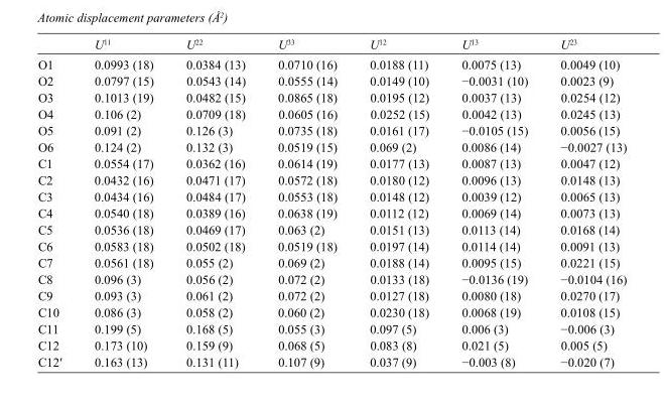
<table><thead><tr><td></td><td>U<sup>11</sup></td><td>U<sup>22</sup></td><td>U<sup>33</sup></td><td>U<sup>12</sup></td><td>U<sup>13</sup></td><td>U<sup>23</sup></td></tr></thead><tbody><tr><td>O1</td><td>0.0993 (18)</td><td>0.0384 (13)</td><td>0.0710 (16)</td><td>0.0188 (11)</td><td>0.0075 (13)</td><td>0.0049 (10)</td></tr><tr><td>O2</td><td>0.0797 (15)</td><td>0.0543 (14)</td><td>0.0555 (14)</td><td>0.0149 (10)</td><td>−0.0031 (10)</td><td>0.0023 (9)</td></tr><tr><td>O3</td><td>0.1013 (19)</td><td>0.0482 (15)</td><td>0.0865 (18)</td><td>0.0195 (12)</td><td>0.0037 (13)</td><td>0.0254 (12)</td></tr><tr><td>O4</td><td>0.106 (2)</td><td>0.0709 (18)</td><td>0.0605 (16)</td><td>0.0252 (15)</td><td>0.0042 (13)</td><td>0.0245 (13)</td></tr><tr><td>O5</td><td>0.091 (2)</td><td>0.126 (3)</td><td>0.0735 (18)</td><td>0.0161 (17)</td><td>−0.0105 (15)</td><td>0.0056 (15)</td></tr><tr><td>O6</td><td>0.124 (2)</td><td>0.132 (3)</td><td>0.0519 (15)</td><td>0.069 (2)</td><td>0.0086 (14)</td><td>−0.0027 (13)</td></tr><tr><td>C1</td><td>0.0554 (17)</td><td>0.0362 (16)</td><td>0.0614 (19)</td><td>0.0177 (13)</td><td>0.0087 (13)</td><td>0.0047 (12)</td></tr><tr><td>C2</td><td>0.0432 (16)</td><td>0.0471 (17)</td><td>0.0572 (18)</td><td>0.0180 (12)</td><td>0.0096 (13)</td><td>0.0148 (13)</td></tr><tr><td>C3</td><td>0.0434 (16)</td><td>0.0484 (17)</td><td>0.0553 (18)</td><td>0.0148 (12)</td><td>0.0039 (12)</td><td>0.0065 (13)</td></tr><tr><td>C4</td><td>0.0540 (18)</td><td>0.0389 (16)</td><td>0.0638 (19)</td><td>0.0112 (12)</td><td>0.0069 (14)</td><td>0.0073 (13)</td></tr><tr><td>C5</td><td>0.0536 (18)</td><td>0.0469 (17)</td><td>0.063 (2)</td><td>0.0151 (13)</td><td>0.0113 (14)</td><td>0.0168 (14)</td></tr><tr><td>C6</td><td>0.0583 (18)</td><td>0.0502 (18)</td><td>0.0519 (18)</td><td>0.0197 (14)</td><td>0.0114 (14)</td><td>0.0091 (13)</td></tr><tr><td>C7</td><td>0.0561 (18)</td><td>0.055 (2)</td><td>0.069 (2)</td><td>0.0188 (14)</td><td>0.0095 (15)</td><td>0.0221 (15)</td></tr><tr><td>C8</td><td>0.096 (3)</td><td>0.056 (2)</td><td>0.072 (2)</td><td>0.0133 (18)</td><td>−0.0136 (19)</td><td>−0.0104 (16)</td></tr><tr><td>C9</td><td>0.093 (3)</td><td>0.061 (2)</td><td>0.072 (2)</td><td>0.0127 (18)</td><td>0.0080 (18)</td><td>0.0270 (17)</td></tr><tr><td>C10</td><td>0.086 (3)</td><td>0.058 (2)</td><td>0.060 (2)</td><td>0.0230 (18)</td><td>0.0068 (19)</td><td>0.0108 (15)</td></tr><tr><td>C11</td><td>0.199 (5)</td><td>0.168 (5)</td><td>0.055 (3)</td><td>0.097 (5)</td><td>0.006 (3)</td><td>−0.006 (3)</td></tr><tr><td>C12</td><td>0.173 (10)</td><td>0.159 (9)</td><td>0.068 (5)</td><td>0.083 (8)</td><td>0.021 (5)</td><td>0.005 (5)</td></tr><tr><td>C12′</td><td>0.163 (13)</td><td>0.131 (11)</td><td>0.107 (9)</td><td>0.037 (9)</td><td>−0.003 (8)</td><td>−0.020 (7)</td></tr></tbody></table>